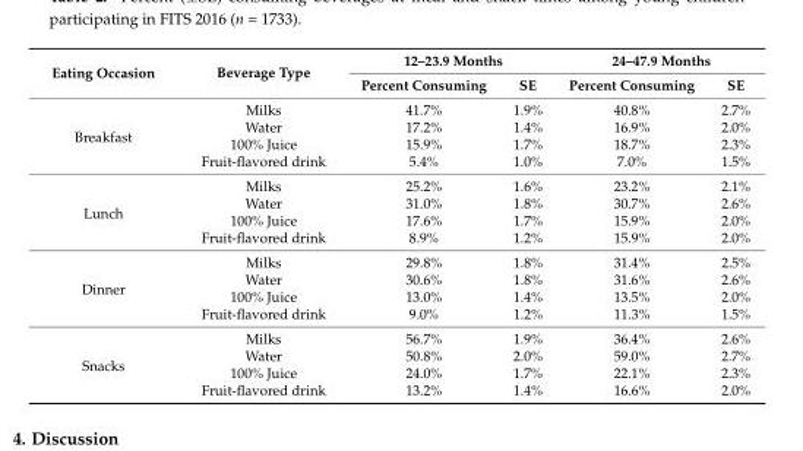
<table><thead><tr><td rowspan="2">Eating Occasion</td><td rowspan="2">Beverage Type</td><td colspan="2">12–23.9 Months</td><td colspan="2">24–47.9 Months</td></tr><tr><td>Percent Consuming</td><td>SE</td><td>Percent Consuming</td><td>SE</td></tr></thead><tbody><tr><td rowspan="4">Breakfast</td><td>Milks</td><td>41.7%</td><td>1.9%</td><td>40.8%</td><td>2.7%</td></tr><tr><td>Water</td><td>17.2%</td><td>1.4%</td><td>16.9%</td><td>2.0%</td></tr><tr><td>100% Juice</td><td>15.9%</td><td>1.7%</td><td>18.7%</td><td>2.3%</td></tr><tr><td>Fruit-flavored drink</td><td>5.4%</td><td>1.0%</td><td>7.0%</td><td>1.5%</td></tr><tr><td rowspan="4">Lunch</td><td>Milks</td><td>25.2%</td><td>1.6%</td><td>23.2%</td><td>2.1%</td></tr><tr><td>Water</td><td>31.0%</td><td>1.8%</td><td>30.7%</td><td>2.6%</td></tr><tr><td>100% Juice</td><td>17.6%</td><td>1.7%</td><td>15.9%</td><td>2.0%</td></tr><tr><td>Fruit-flavored drink</td><td>8.9%</td><td>1.2%</td><td>15.9%</td><td>2.0%</td></tr><tr><td rowspan="4">Dinner</td><td>Milks</td><td>29.8%</td><td>1.8%</td><td>31.4%</td><td>2.5%</td></tr><tr><td>Water</td><td>30.6%</td><td>1.8%</td><td>31.6%</td><td>2.6%</td></tr><tr><td>100% Juice</td><td>13.0%</td><td>1.4%</td><td>13.5%</td><td>2.0%</td></tr><tr><td>Fruit-flavored drink</td><td>9.0%</td><td>1.2%</td><td>11.3%</td><td>1.5%</td></tr><tr><td rowspan="4">Snacks</td><td>Milks</td><td>56.7%</td><td>1.9%</td><td>36.4%</td><td>2.6%</td></tr><tr><td>Water</td><td>50.8%</td><td>2.0%</td><td>59.0%</td><td>2.7%</td></tr><tr><td>100% Juice</td><td>24.0%</td><td>1.7%</td><td>22.1%</td><td>2.3%</td></tr><tr><td>Fruit-flavored drink</td><td>13.2%</td><td>1.4%</td><td>16.6%</td><td>2.0%</td></tr></tbody></table>